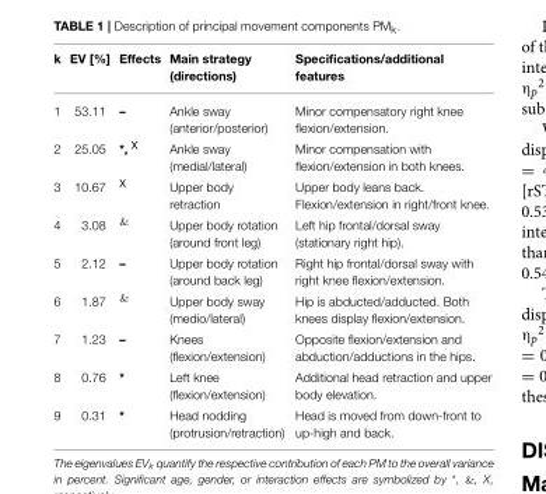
<table><thead><tr><td>k</td><td>EV [%]</td><td>Effects</td><td>Main strategy (directions)</td><td>Specifications/additional features</td></tr></thead><tbody><tr><td>1</td><td>53.11</td><td>–</td><td>Ankle sway (anterior/posterior)</td><td>Minor compensatory right knee flexion/extension.</td></tr><tr><td>2</td><td>25.05</td><td>*, <sup>X</sup></td><td>Ankle sway (medial/lateral)</td><td>Minor compensation with flexion/extension in both knees.</td></tr><tr><td>3</td><td>10.67</td><td><sup>X</sup></td><td>Upper body retraction</td><td>Upper body leans back. Flexion/extension in right/front knee.</td></tr><tr><td>4</td><td>3.08</td><td><sup>&amp;</sup></td><td>Upper body rotation (around front leg)</td><td>Left hip frontal/dorsal sway (stationary right hip).</td></tr><tr><td>5</td><td>2.12</td><td>–</td><td>Upper body rotation (around back leg)</td><td>Right hip frontal/dorsal sway with right knee flexion/extension.</td></tr><tr><td>6</td><td>1.87</td><td><sup>&amp;</sup></td><td>Upper body sway (medio/lateral)</td><td>Hip is abducted/adducted. Both knees display flexion/extension.</td></tr><tr><td>7</td><td>1.23</td><td>–</td><td>Knees (flexion/extension)</td><td>Opposite flexion/extension and abduction/adductions in the hips.</td></tr><tr><td>8</td><td>0.76</td><td>*</td><td>Left knee (flexion/extension)</td><td>Additional head retraction and upper body elevation.</td></tr><tr><td>9</td><td>0.31</td><td>*</td><td>Head nodding (protrusion/retraction)</td><td>Head is moved from down-front to up-high and back.</td></tr></tbody></table>